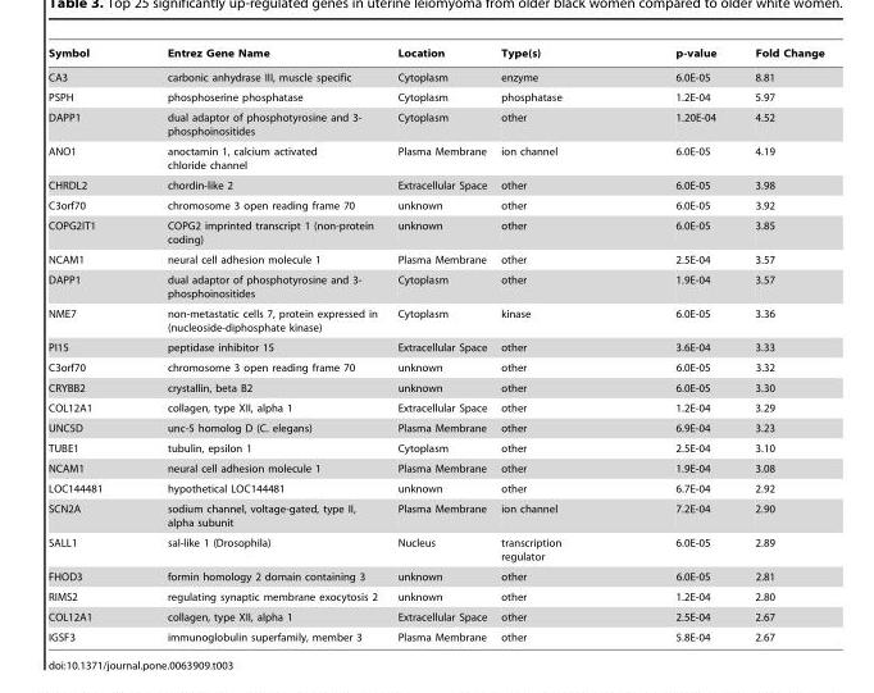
<table><thead><tr><td>Symbol</td><td>Entrez Gene Name</td><td>Location</td><td>Type(s)</td><td>p-value</td><td>Fold Change</td></tr></thead><tbody><tr><td>CA3</td><td>carbonic anhydrase III, muscle specific</td><td>Cytoplasm</td><td>enzyme</td><td>6.0E-05</td><td>8.81</td></tr><tr><td>PSPH</td><td>phosphoserine phosphatase</td><td>Cytoplasm</td><td>phosphatase</td><td>1.2E-04</td><td>5.97</td></tr><tr><td>DAPP1</td><td>dual adaptor of phosphotyrosine and 3- phosphoinositides</td><td>Cytoplasm</td><td>other</td><td>1.20E-04</td><td>4.52</td></tr><tr><td>ANO1</td><td>anoctamin 1, calcium activated chloride channel</td><td>Plasma Membrane</td><td>ion channel</td><td>6.0E-05</td><td>4.19</td></tr><tr><td>CHRDL2</td><td>chordin-like 2</td><td>Extracellular Space</td><td>other</td><td>6.0E-05</td><td>3.98</td></tr><tr><td>C3orf70</td><td>chromosome 3 open reading frame 70</td><td>unknown</td><td>other</td><td>6.0E-05</td><td>3.92</td></tr><tr><td>COPG2IT1</td><td>COPG2 imprinted transcript 1 (non-protein coding)</td><td>unknown</td><td>other</td><td>6.0E-05</td><td>3.85</td></tr><tr><td>NCAM1</td><td>neural cell adhesion molecule 1</td><td>Plasma Membrane</td><td>other</td><td>2.5E-04</td><td>3.57</td></tr><tr><td>DAPP1</td><td>dual adaptor of phosphotyrosine and 3- phosphoinositides</td><td>Cytoplasm</td><td>other</td><td>1.9E-04</td><td>3.57</td></tr><tr><td>NME7</td><td>non-metastatic cells 7, protein expressed in (nucleoside-diphosphate kinase)</td><td>Cytoplasm</td><td>kinase</td><td>6.0E-05</td><td>3.36</td></tr><tr><td>PI15</td><td>peptidase inhibitor 15</td><td>Extracellular Space</td><td>other</td><td>3.6E-04</td><td>3.33</td></tr><tr><td>C3orf70</td><td>chromosome 3 open reading frame 70</td><td>unknown</td><td>other</td><td>6.0E-05</td><td>3.32</td></tr><tr><td>CRYBB2</td><td>crystallin, beta B2</td><td>unknown</td><td>other</td><td>6.0E-05</td><td>3.30</td></tr><tr><td>COL12A1</td><td>collagen, type XII, alpha 1</td><td>Extracellular Space</td><td>other</td><td>1.2E-04</td><td>3.29</td></tr><tr><td>UNC5D</td><td>unc-5 homolog D (C. elegans)</td><td>Plasma Membrane</td><td>other</td><td>6.9E-04</td><td>3.23</td></tr><tr><td>TUBE1</td><td>tubulin, epsilon 1</td><td>Cytoplasm</td><td>other</td><td>2.5E-04</td><td>3.10</td></tr><tr><td>NCAM1</td><td>neural cell adhesion molecule 1</td><td>Plasma Membrane</td><td>other</td><td>1.9E-04</td><td>3.08</td></tr><tr><td>LOC144481</td><td>hypothetical LOC144481</td><td>unknown</td><td>other</td><td>6.7E-04</td><td>2.92</td></tr><tr><td>SCN2A</td><td>sodium channel, voltage-gated, type II, alpha subunit</td><td>Plasma Membrane</td><td>ion channel</td><td>7.2E-04</td><td>2.90</td></tr><tr><td>SALL1</td><td>sal-like 1 (Drosophila)</td><td>Nucleus</td><td>transcription regulator</td><td>6.0E-05</td><td>2.89</td></tr><tr><td>FHOD3</td><td>formin homology 2 domain containing 3</td><td>unknown</td><td>other</td><td>6.0E-05</td><td>2.81</td></tr><tr><td>RIMS2</td><td>regulating synaptic membrane exocytosis 2</td><td>unknown</td><td>other</td><td>1.2E-04</td><td>2.80</td></tr><tr><td>COL12A1</td><td>collagen, type XII, alpha 1</td><td>Extracellular Space</td><td>other</td><td>2.5E-04</td><td>2.67</td></tr><tr><td>IGSF3</td><td>immunoglobulin superfamily, member 3</td><td>Plasma Membrane</td><td>other</td><td>5.8E-04</td><td>2.67</td></tr></tbody></table>